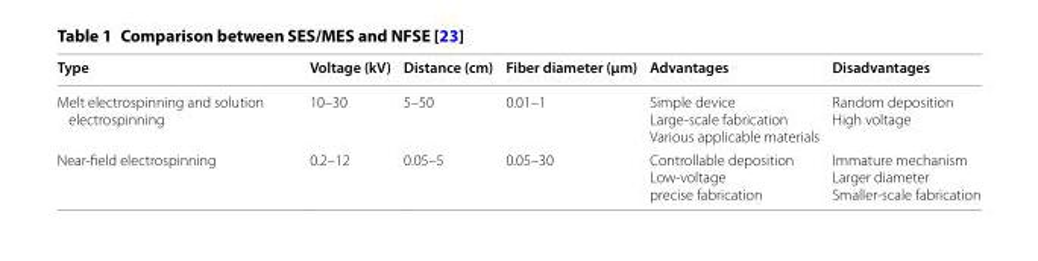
<table><thead><tr><td>Type</td><td>Voltage (kV)</td><td>Distance (cm)</td><td>Fiber diameter (μm)</td><td>Advantages</td><td>Disadvantages</td></tr></thead><tbody><tr><td>Melt electrospinning and solution electrospinning</td><td>10–30</td><td>5–50</td><td>0.01–1</td><td>Simple device Large-scale fabrication Various applicable materials</td><td>Random deposition High voltage</td></tr><tr><td>Near-field electrospinning</td><td>0.2–12</td><td>0.05–5</td><td>0.05–30</td><td>Controllable deposition Low-voltage precise fabrication</td><td>Immature mechanism Larger diameter Smaller-scale fabrication</td></tr></tbody></table>